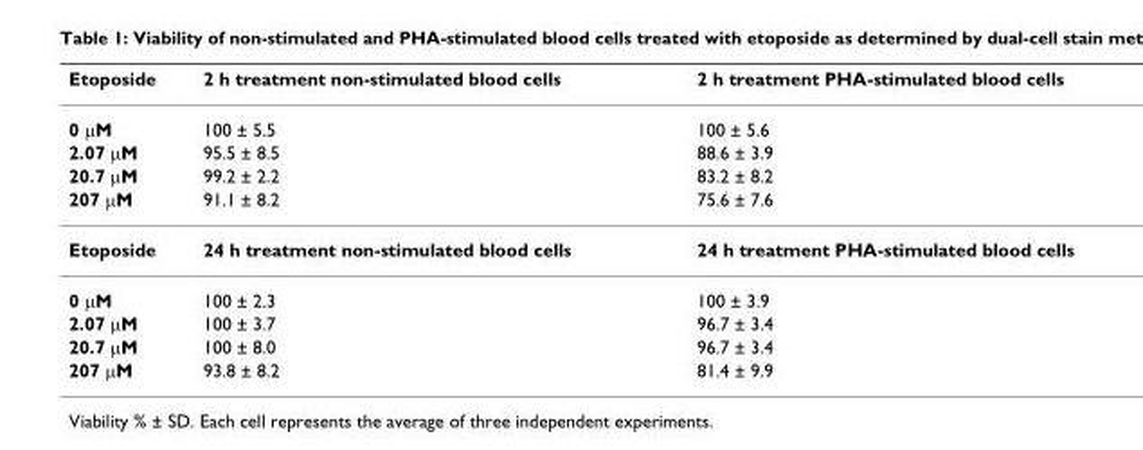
<table><thead><tr><td>Etoposide</td><td>2 h treatment non-stimulated blood cells</td><td>2 h treatment PHA-stimulated blood cells</td></tr></thead><tbody><tr><td>0 μM</td><td>100 ± 5.5</td><td>100 ± 5.6</td></tr><tr><td>2.07 μM</td><td>95.5 ± 8.5</td><td>88.6 ± 3.9</td></tr><tr><td>20.7 μM</td><td>99.2 ± 2.2</td><td>83.2 ± 8.2</td></tr><tr><td>207 μM</td><td>91.1 ± 8.2</td><td>75.6 ± 7.6</td></tr><tr><td>Etoposide</td><td>24 h treatment non-stimulated blood cells</td><td>24 h treatment PHA-stimulated blood cells</td></tr><tr><td>0 μM</td><td>100 ± 2.3</td><td>100 ± 3.9</td></tr><tr><td>2.07 μM</td><td>100 ± 3.7</td><td>96.7 ± 3.4</td></tr><tr><td>20.7 μM</td><td>100 ± 8.0</td><td>96.7 ± 3.4</td></tr><tr><td>207 μM</td><td>93.8 ± 8.2</td><td>81.4 ± 9.9</td></tr></tbody></table>